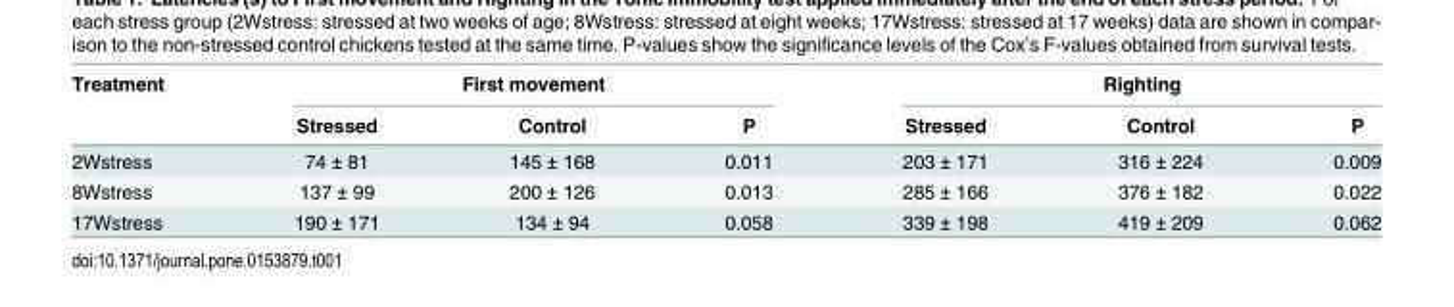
<table><thead><tr><td rowspan="2">Treatment</td><td colspan="3">First movement</td><td colspan="3">Righting</td></tr><tr><td>Stressed</td><td>Control</td><td>P</td><td>Stressed</td><td>Control</td><td>P</td></tr></thead><tbody><tr><td>2Wstress</td><td>74 ± 81</td><td>145 ± 168</td><td>0.011</td><td>203 ± 171</td><td>316 ± 224</td><td>0.009</td></tr><tr><td>8Wstress</td><td>137 ± 99</td><td>200 ± 126</td><td>0.013</td><td>285 ± 166</td><td>376 ± 182</td><td>0.022</td></tr><tr><td>17Wstress</td><td>190 ± 171</td><td>134 ± 94</td><td>0.058</td><td>339 ± 198</td><td>419 ± 209</td><td>0.062</td></tr></tbody></table>